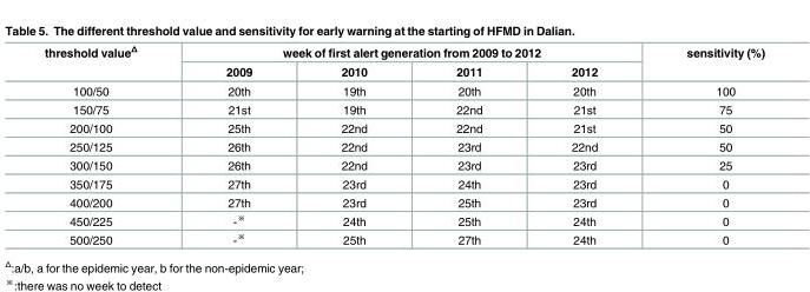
<table><thead><tr><td rowspan="2">threshold value<sup>Δ</sup></td><td colspan="4">week of first alert generation from 2009 to 2012</td><td rowspan="2">sensitivity (%)</td></tr><tr><td>2009</td><td>2010</td><td>2011</td><td>2012</td></tr></thead><tbody><tr><td>100/50</td><td>20th</td><td>19th</td><td>20th</td><td>20th</td><td>100</td></tr><tr><td>150/75</td><td>21st</td><td>19th</td><td>22nd</td><td>21st</td><td>75</td></tr><tr><td>200/100</td><td>25th</td><td>22nd</td><td>22nd</td><td>21st</td><td>50</td></tr><tr><td>250/125</td><td>26th</td><td>22nd</td><td>23rd</td><td>22nd</td><td>50</td></tr><tr><td>300/150</td><td>26th</td><td>22nd</td><td>23rd</td><td>23rd</td><td>25</td></tr><tr><td>350/175</td><td>27th</td><td>23rd</td><td>24th</td><td>23rd</td><td>0</td></tr><tr><td>400/200</td><td>27th</td><td>23rd</td><td>25th</td><td>23rd</td><td>0</td></tr><tr><td>450/225</td><td>-<sup>※</sup></td><td>24th</td><td>25th</td><td>24th</td><td>0</td></tr><tr><td>500/250</td><td>-<sup>※</sup></td><td>25th</td><td>27th</td><td>24th</td><td>0</td></tr></tbody></table>